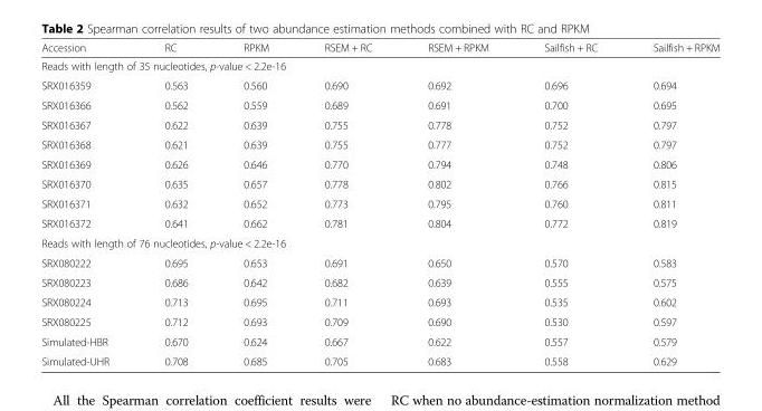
<table><thead><tr><td>Accession</td><td>RC</td><td>RPKM</td><td>RSEM + RC</td><td>RSEM + RPKM</td><td>Sailfish + RC</td><td>Sailfish + RPKM</td></tr></thead><tbody><tr><td colspan="7">Reads with length of 35 nucleotides, p-value &lt; 2.2e-16</td></tr><tr><td>SRX016359</td><td>0.563</td><td>0.560</td><td>0.690</td><td>0.692</td><td>0.696</td><td>0.694</td></tr><tr><td>SRX016366</td><td>0.562</td><td>0.559</td><td>0.689</td><td>0.691</td><td>0.700</td><td>0.695</td></tr><tr><td>SRX016367</td><td>0.622</td><td>0.639</td><td>0.755</td><td>0.778</td><td>0.752</td><td>0.797</td></tr><tr><td>SRX016368</td><td>0.621</td><td>0.639</td><td>0.755</td><td>0.777</td><td>0.752</td><td>0.797</td></tr><tr><td>SRX016369</td><td>0.626</td><td>0.646</td><td>0.770</td><td>0.794</td><td>0.748</td><td>0.806</td></tr><tr><td>SRX016370</td><td>0.635</td><td>0.657</td><td>0.778</td><td>0.802</td><td>0.766</td><td>0.815</td></tr><tr><td>SRX016371</td><td>0.632</td><td>0.652</td><td>0.773</td><td>0.795</td><td>0.760</td><td>0.811</td></tr><tr><td>SRX016372</td><td>0.641</td><td>0.662</td><td>0.781</td><td>0.804</td><td>0.772</td><td>0.819</td></tr><tr><td colspan="7">Reads with length of 76 nucleotides, p-value &lt; 2.2e-16</td></tr><tr><td>SRX080222</td><td>0.695</td><td>0.653</td><td>0.691</td><td>0.650</td><td>0.570</td><td>0.583</td></tr><tr><td>SRX080223</td><td>0.686</td><td>0.642</td><td>0.682</td><td>0.639</td><td>0.555</td><td>0.575</td></tr><tr><td>SRX080224</td><td>0.713</td><td>0.695</td><td>0.711</td><td>0.693</td><td>0.535</td><td>0.602</td></tr><tr><td>SRX080225</td><td>0.712</td><td>0.693</td><td>0.709</td><td>0.690</td><td>0.530</td><td>0.597</td></tr><tr><td>Simulated-HBR</td><td>0.670</td><td>0.624</td><td>0.667</td><td>0.622</td><td>0.557</td><td>0.579</td></tr><tr><td>Simulated-UHR</td><td>0.708</td><td>0.685</td><td>0.705</td><td>0.683</td><td>0.558</td><td>0.629</td></tr></tbody></table>